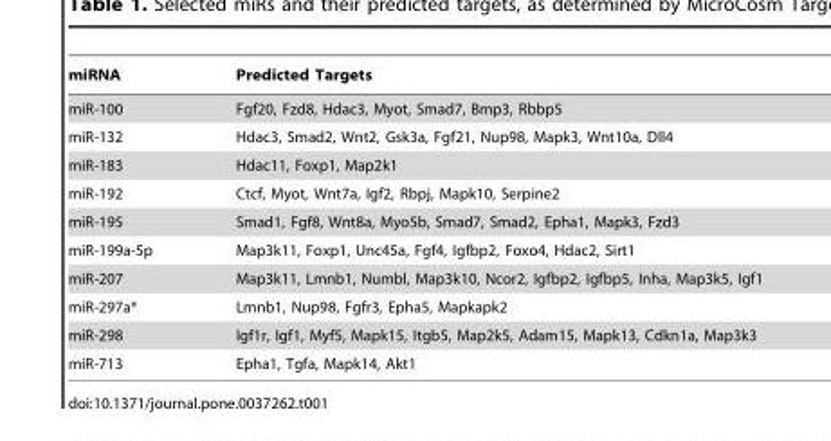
<table><thead><tr><td>miRNA</td><td>Predicted Targets</td></tr></thead><tbody><tr><td>miR-100</td><td>Fgf20, Fzd8, Hdac3, Myot, Smad7, Bmp3, Rbbp5</td></tr><tr><td>miR-132</td><td>Hdac3, Smad2, Wnt2, Gsk3a, Fgf21, Nup98, Mapk3, Wnt10a, Dll4</td></tr><tr><td>miR-183</td><td>Hdac11, Foxp1, Map2k1</td></tr><tr><td>miR-192</td><td>Ctcf, Myot, Wnt7a, Igf2, Rbpj, Mapk10, Serpine2</td></tr><tr><td>miR-195</td><td>Smad1, Fgf8, Wnt8a, Myo5b, Smad7, Smad2, Epha1, Mapk3, Fzd3</td></tr><tr><td>miR-199a-5p</td><td>Map3k11, Foxp1, Unc45a, Fgf4, Igfbp2, Foxo4, Hdac2, Sirt1</td></tr><tr><td>miR-207</td><td>Map3k11, Lmnb1, Numbl, Map3k10, Ncor2, Igfbp2, Igfbp5, Inha, Map3k5, Igf1</td></tr><tr><td>miR-297a*</td><td>Lmnb1, Nup98, Fgfr3, Epha5, Mapkapk2</td></tr><tr><td>miR-298</td><td>Igf1r, Igf1, Myf5, Mapk15, Itgb5, Map2k5, Adam15, Mapk13, Cdkn1a, Map3k3</td></tr><tr><td>miR-713</td><td>Epha1, Tgfa, Mapk14, Akt1</td></tr></tbody></table>